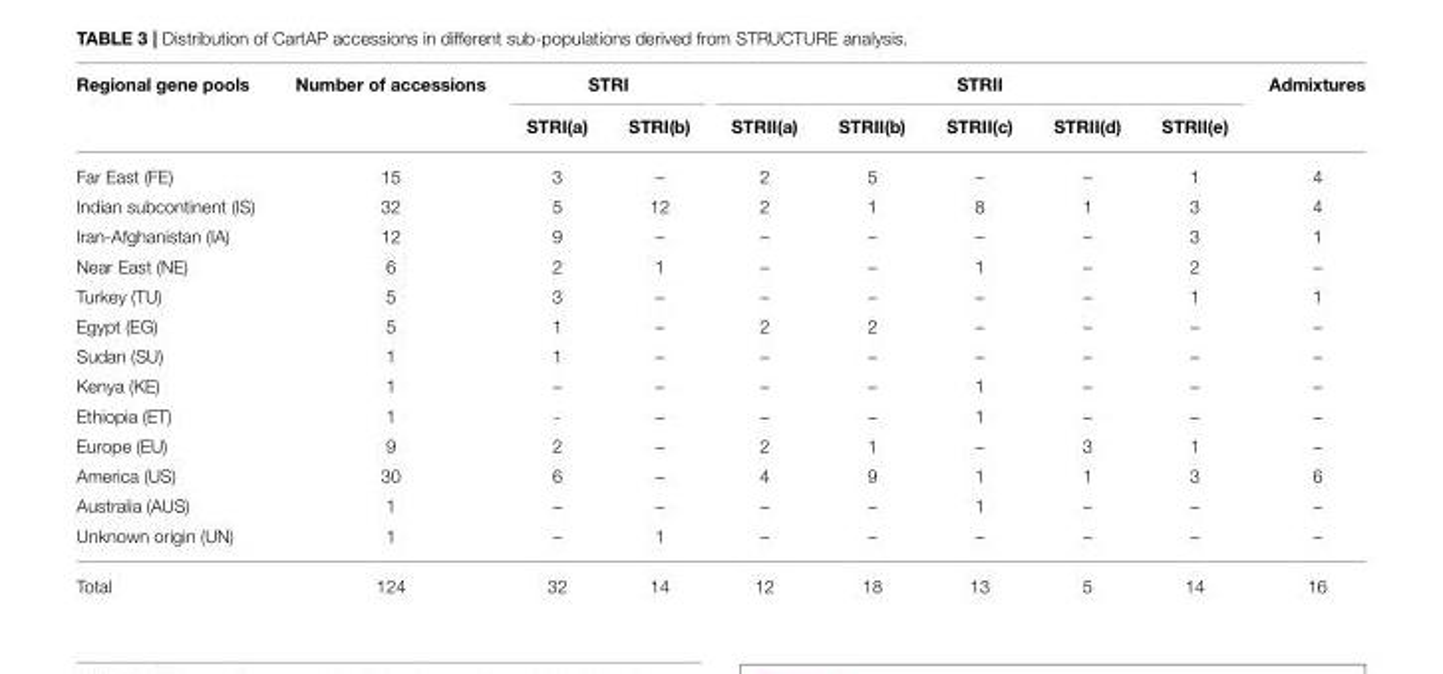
<table><thead><tr><td rowspan="2">Regional gene pools</td><td rowspan="2">Number of accessions</td><td colspan="2">STRI</td><td colspan="5">STRII</td><td rowspan="2">Admixtures</td></tr><tr><td>STRI(a)</td><td>STRI(b)</td><td>STRII(a)</td><td>STRII(b)</td><td>STRII(c)</td><td>STRII(d)</td><td>STRII(e)</td></tr></thead><tbody><tr><td>Far East (FE)</td><td>15</td><td>3</td><td>–</td><td>2</td><td>5</td><td>–</td><td>–</td><td>1</td><td>4</td></tr><tr><td>Indian subcontinent (IS)</td><td>32</td><td>5</td><td>12</td><td>2</td><td>1</td><td>8</td><td>1</td><td>3</td><td>4</td></tr><tr><td>Iran-Afghanistan (IA)</td><td>12</td><td>9</td><td>–</td><td>–</td><td>–</td><td>–</td><td>–</td><td>3</td><td>1</td></tr><tr><td>Near East (NE)</td><td>6</td><td>2</td><td>1</td><td>–</td><td>–</td><td>1</td><td>–</td><td>2</td><td>–</td></tr><tr><td>Turkey (TU)</td><td>5</td><td>3</td><td>–</td><td>–</td><td>–</td><td>–</td><td>–</td><td>1</td><td>1</td></tr><tr><td>Egypt (EG)</td><td>5</td><td>1</td><td>–</td><td>2</td><td>2</td><td>–</td><td>–</td><td>–</td><td>–</td></tr><tr><td>Sudan (SU)</td><td>1</td><td>1</td><td>–</td><td>–</td><td>–</td><td>–</td><td>–</td><td>–</td><td>–</td></tr><tr><td>Kenya (KE)</td><td>1</td><td>–</td><td>–</td><td>–</td><td>–</td><td>1</td><td>–</td><td>–</td><td>–</td></tr><tr><td>Ethiopia (ET)</td><td>1</td><td>-</td><td>–</td><td>–</td><td>–</td><td>1</td><td>–</td><td>–</td><td>–</td></tr><tr><td>Europe (EU)</td><td>9</td><td>2</td><td>–</td><td>2</td><td>1</td><td>–</td><td>3</td><td>1</td><td>–</td></tr><tr><td>America (US)</td><td>30</td><td>6</td><td>–</td><td>4</td><td>9</td><td>1</td><td>1</td><td>3</td><td>6</td></tr><tr><td>Australia (AUS)</td><td>1</td><td>–</td><td>–</td><td>–</td><td>–</td><td>1</td><td>–</td><td>–</td><td>–</td></tr><tr><td>Unknown origin (UN)</td><td>1</td><td>–</td><td>1</td><td>–</td><td>–</td><td>–</td><td>–</td><td>–</td><td>–</td></tr><tr><td>Total</td><td>124</td><td>32</td><td>14</td><td>12</td><td>18</td><td>13</td><td>5</td><td>14</td><td>16</td></tr></tbody></table>